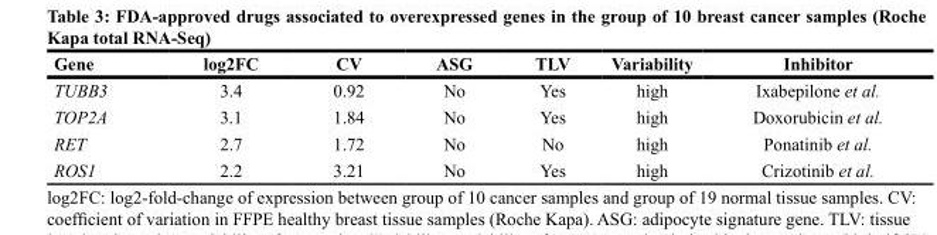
<table><thead><tr><td>Gene</td><td>log2FC</td><td>CV</td><td>ASG</td><td>TLV</td><td>Variability</td><td>Inhibitor</td></tr></thead><tbody><tr><td>TUBB3</td><td>3.4</td><td>0.92</td><td>No</td><td>Yes</td><td>high</td><td>Ixabepilone et al.</td></tr><tr><td>TOP2A</td><td>3.1</td><td>1.84</td><td>No</td><td>Yes</td><td>high</td><td>Doxorubicin et al.</td></tr><tr><td>RET</td><td>2.7</td><td>1.72</td><td>No</td><td>No</td><td>high</td><td>Ponatinib et al.</td></tr><tr><td>ROS1</td><td>2.2</td><td>3.21</td><td>No</td><td>Yes</td><td>high</td><td>Crizotinib et al.</td></tr></tbody></table>